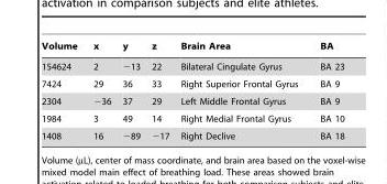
<table><thead><tr><td>Volume</td><td>x</td><td>y</td><td>z</td><td>Brain Area</td><td>BA</td></tr></thead><tbody><tr><td>154624</td><td>2</td><td>−13</td><td>22</td><td>Bilateral Cingulate Gyrus</td><td>BA 23</td></tr><tr><td>7424</td><td>29</td><td>36</td><td>33</td><td>Right Superior Frontal Gyrus</td><td>BA 9</td></tr><tr><td>2304</td><td>−36</td><td>37</td><td>29</td><td>Left Middle Frontal Gyrus</td><td>BA 9</td></tr><tr><td>1984</td><td>3</td><td>49</td><td>14</td><td>Right Medial Frontal Gyrus</td><td>BA 10</td></tr><tr><td>1408</td><td>16</td><td>−89</td><td>−17</td><td>Right Declive</td><td>BA 18</td></tr></tbody></table>